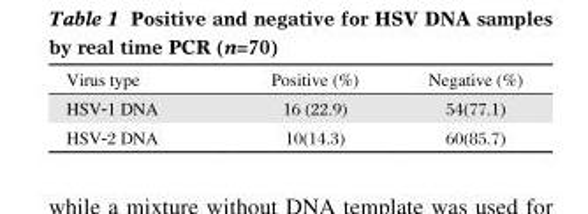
<table><thead><tr><td>Virus type</td><td>Positive (%)</td><td>Negative (%)</td></tr></thead><tbody><tr><td>HSV-1 DNA</td><td>16 (22.9)</td><td>54(77.1)</td></tr><tr><td>HSV-2 DNA</td><td>10(14.3)</td><td>60(85.7)</td></tr></tbody></table>